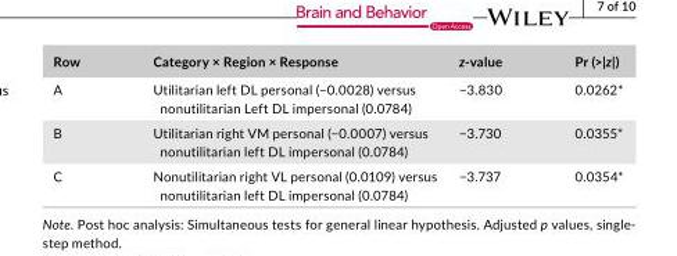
<table><thead><tr><td>Row</td><td>Category × Region × Response</td><td>z‐value</td><td>Pr (&gt;|z|)</td></tr></thead><tbody><tr><td>A</td><td>Utilitarian left DL personal (−0.0028) versus nonutilitarian Left DL impersonal (0.0784)</td><td>−3.830</td><td>0.0262*</td></tr><tr><td>B</td><td>Utilitarian right VM personal (−0.0007) versus nonutilitarian left DL impersonal (0.0784)</td><td>−3.730</td><td>0.0355*</td></tr><tr><td>C</td><td>Nonutilitarian right VL personal (0.0109) versus nonutilitarian left DL impersonal (0.0784)</td><td>−3.737</td><td>0.0354*</td></tr></tbody></table>